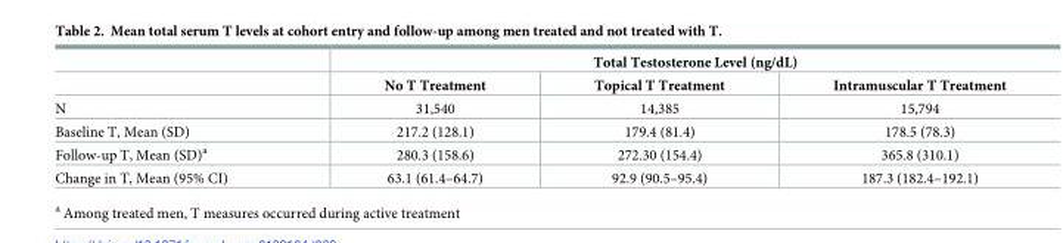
<table><thead><tr><td rowspan="2"></td><td colspan="3">Total Testosterone Level (ng/dL)</td></tr><tr><td>No T Treatment</td><td>Topical T Treatment</td><td>Intramuscular T Treatment</td></tr></thead><tbody><tr><td>N</td><td>31,540</td><td>14,385</td><td>15,794</td></tr><tr><td>Baseline T, Mean (SD)</td><td>217.2 (128.1)</td><td>179.4 (81.4)</td><td>178.5 (78.3)</td></tr><tr><td>Follow-up T, Mean (SD)<sup>a</sup></td><td>280.3 (158.6)</td><td>272.30 (154.4)</td><td>365.8 (310.1)</td></tr><tr><td>Change in T, Mean (95% CI)</td><td>63.1 (61.4–64.7)</td><td>92.9 (90.5–95.4)</td><td>187.3 (182.4–192.1)</td></tr></tbody></table>